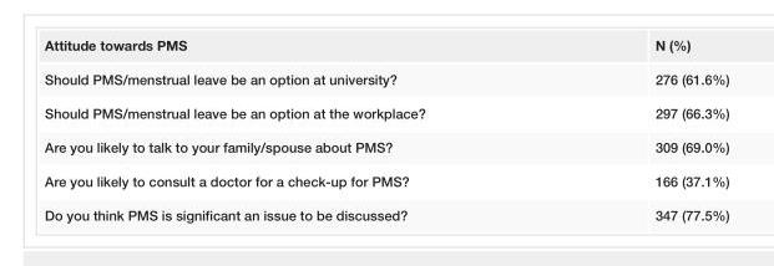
<table><tbody><tr><td>Attitude towards PMS</td><td>N (%)</td></tr><tr><td>Should PMS/menstrual leave be an option at university?</td><td>276 (61.6%)</td></tr><tr><td>Should PMS/menstrual leave be an option at the workplace?</td><td>297 (66.3%)</td></tr><tr><td>Are you likely to talk to your family/spouse about PMS?</td><td>309 (69.0%)</td></tr><tr><td>Are you likely to consult a doctor for a check-up for PMS?</td><td>166 (37.1%)</td></tr><tr><td>Do you think PMS is significant an issue to be discussed?</td><td>347 (77.5%)</td></tr></tbody></table>